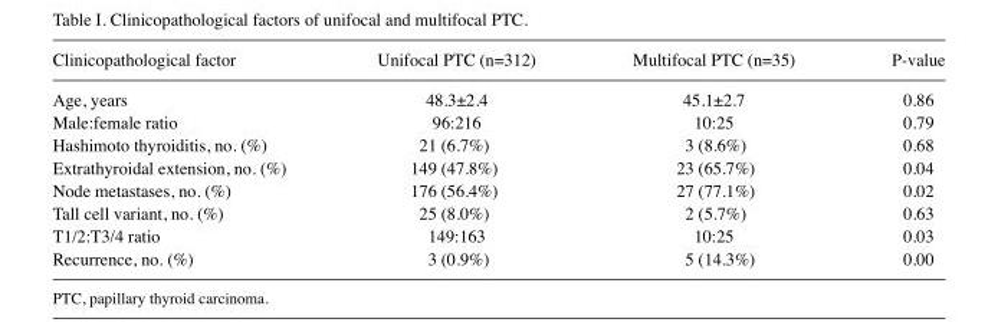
<table><thead><tr><td>Clinicopathological factor</td><td>Unifocal PTC (n=312)</td><td>Multifocal PTC (n=35)</td><td>P-value</td></tr></thead><tbody><tr><td>Age, years</td><td>48.3±2.4</td><td>45.1±2.7</td><td>0.86</td></tr><tr><td>Male:female ratio</td><td>96:216</td><td>10:25</td><td>0.79</td></tr><tr><td>Hashimoto thyroiditis, no. (%)</td><td>21 (6.7%)</td><td>3 (8.6%)</td><td>0.68</td></tr><tr><td>Extrathyroidal extension, no. (%)</td><td>149 (47.8%)</td><td>23 (65.7%)</td><td>0.04</td></tr><tr><td>Node metastases, no. (%)</td><td>176 (56.4%)</td><td>27 (77.1%)</td><td>0.02</td></tr><tr><td>Tall cell variant, no. (%)</td><td>25 (8.0%)</td><td>2 (5.7%)</td><td>0.63</td></tr><tr><td>T1/2:T3/4 ratio</td><td>149:163</td><td>10:25</td><td>0.03</td></tr><tr><td>Recurrence, no. (%)</td><td>3 (0.9%)</td><td>5 (14.3%)</td><td>0.00</td></tr></tbody></table>